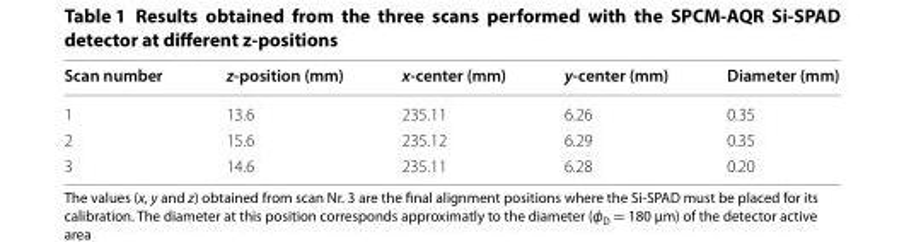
<table><thead><tr><td>Scan number</td><td>z‑position (mm)</td><td>x‑center (mm)</td><td>y‑center (mm)</td><td>Diameter (mm)</td></tr></thead><tbody><tr><td>1</td><td>13.6</td><td>235.11</td><td>6.26</td><td>0.35</td></tr><tr><td>2</td><td>15.6</td><td>235.12</td><td>6.29</td><td>0.35</td></tr><tr><td>3</td><td>14.6</td><td>235.11</td><td>6.28</td><td>0.20</td></tr></tbody></table>